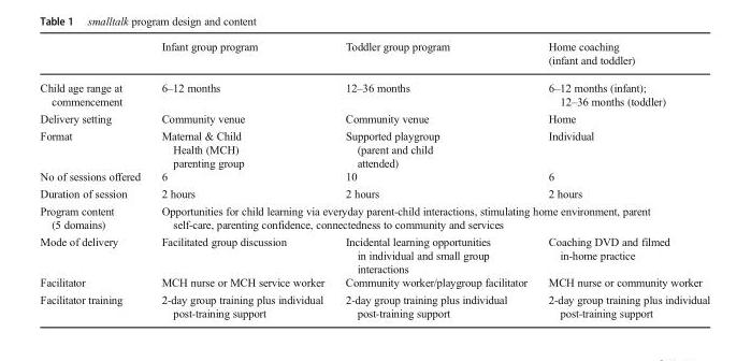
<table><thead><tr><td></td><td>Infant group program</td><td>Toddler group program</td><td>Home coaching (infant and toddler)</td></tr></thead><tbody><tr><td>Child age range at commencement</td><td>6–12 months</td><td>12–36 months</td><td>6–12 months (infant); 12–36 months (toddler)</td></tr><tr><td>Delivery setting</td><td>Community venue</td><td>Community venue</td><td>Home</td></tr><tr><td>Format</td><td>Maternal &amp; Child Health (MCH) parenting group</td><td>Supported playgroup (parent and child attended)</td><td>Individual</td></tr><tr><td>No of sessions offered</td><td>6</td><td>10</td><td>6</td></tr><tr><td>Duration of session</td><td>2 hours</td><td>2 hours</td><td>2 hours</td></tr><tr><td>Program content (5 domains)</td><td colspan="3">Opportunities for child learning via everyday parent-child interactions, stimulating home environment, parent self-care, parenting confidence, connectedness to community and services</td></tr><tr><td>Mode of delivery</td><td>Facilitated group discussion</td><td>Incidental learning opportunities in individual and small group interactions</td><td>Coaching DVD and filmed in-home practice</td></tr><tr><td>Facilitator</td><td>MCH nurse or MCH service worker</td><td>Community worker/playgroup facilitator</td><td>MCH nurse or community worker</td></tr><tr><td>Facilitator training</td><td>2-day group training plus individual post-training support</td><td>2-day group training plus individual post-training support</td><td>2-day group training plus individual post-training support</td></tr></tbody></table>